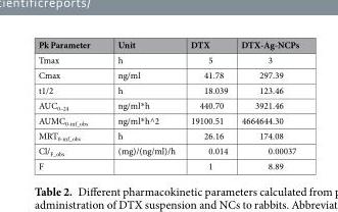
<table><thead><tr><td>Pk Parameter</td><td>Unit</td><td>DTX</td><td>DTX-Ag-NCPs</td></tr></thead><tbody><tr><td>Tmax</td><td>h</td><td>5</td><td>3</td></tr><tr><td>Cmax</td><td>ng/ml</td><td>41.78</td><td>297.39</td></tr><tr><td>t1/2</td><td>h</td><td>18.039</td><td>123.46</td></tr><tr><td>AUC<sub>0–24</sub></td><td>ng/ml*h</td><td>440.70</td><td>3921.46</td></tr><tr><td>AUMC<sub>0-inf_obs</sub></td><td>ng/ml*h^2</td><td>19100.51</td><td>4664644.30</td></tr><tr><td>MRT<sub>0-inf_obs</sub></td><td>h</td><td>26.16</td><td>174.08</td></tr><tr><td>Cl/<sub>F_obs</sub></td><td>(mg)/(ng/ml)/h</td><td>0.014</td><td>0.00037</td></tr><tr><td>F</td><td></td><td>1</td><td>8.89</td></tr></tbody></table>